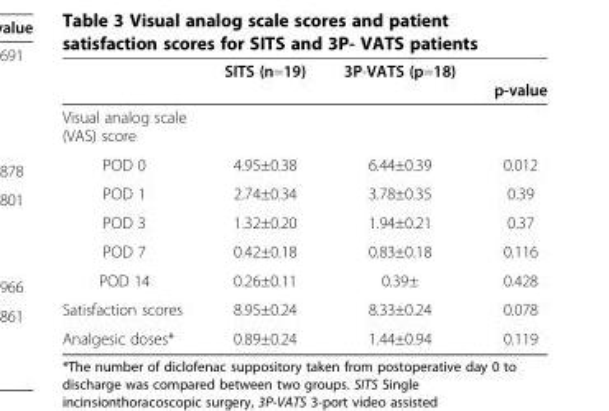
<table><thead><tr><td></td><td>SITS (n=19)</td><td>3P-VATS (p=18)</td><td>p-value</td></tr></thead><tbody><tr><td colspan="4">Visual analog scale (VAS) score</td></tr><tr><td>POD 0</td><td>4.95±0.38</td><td>6.44±0.39</td><td>0.012</td></tr><tr><td>POD 1</td><td>2.74±0.34</td><td>3.78±0.35</td><td>0.39</td></tr><tr><td>POD 3</td><td>1.32±0.20</td><td>1.94±0.21</td><td>0.37</td></tr><tr><td>POD 7</td><td>0.42±0.18</td><td>0.83±0.18</td><td>0.116</td></tr><tr><td>POD 14</td><td>0.26±0.11</td><td>0.39±</td><td>0.428</td></tr><tr><td>Satisfaction scores</td><td>8.95±0.24</td><td>8.33±0.24</td><td>0.078</td></tr><tr><td>Analgesic doses*</td><td>0.89±0.24</td><td>1.44±0.94</td><td>0.119</td></tr></tbody></table>